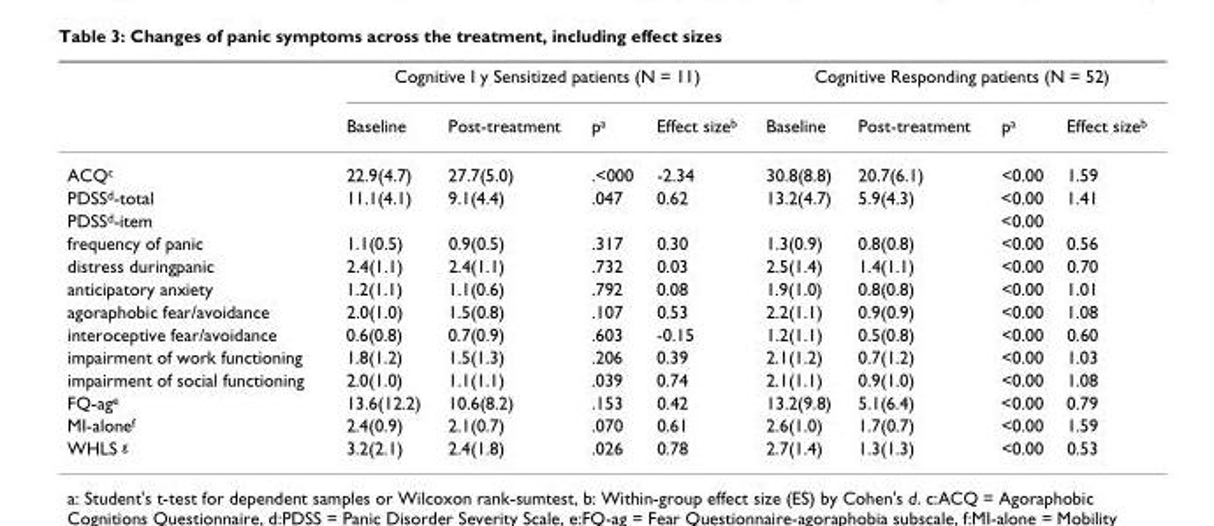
<table><thead><tr><td rowspan="2"></td><td colspan="4">Cognitive I y Sensitized patients (N = 11)</td><td colspan="4">Cognitive Responding patients (N = 52)</td></tr><tr><td>Baseline</td><td>Post-treatment</td><td>p<sup>a</sup></td><td>Effect size<sup>b</sup></td><td>Baseline</td><td>Post-treatment</td><td>p<sup>a</sup></td><td>Effect size<sup>b</sup></td></tr></thead><tbody><tr><td>ACQ<sup>c</sup></td><td>22.9(4.7)</td><td>27.7(5.0)</td><td>.&lt;000</td><td>-2.34</td><td>30.8(8.8)</td><td>20.7(6.1)</td><td>&lt;0.00</td><td>1.59</td></tr><tr><td>PDSS<sup>d</sup>-total</td><td>11.1(4.1)</td><td>9.1(4.4)</td><td>.047</td><td>0.62</td><td>13.2(4.7)</td><td>5.9(4.3)</td><td>&lt;0.00</td><td>1.41</td></tr><tr><td>PDSS<sup>d</sup>-item</td><td></td><td></td><td></td><td></td><td></td><td></td><td>&lt;0.00</td><td></td></tr><tr><td>frequency of panic</td><td>1.1(0.5)</td><td>0.9(0.5)</td><td>.317</td><td>0.30</td><td>1.3(0.9)</td><td>0.8(0.8)</td><td>&lt;0.00</td><td>0.56</td></tr><tr><td>distress duringpanic</td><td>2.4(1.1)</td><td>2.4(1.1)</td><td>.732</td><td>0.03</td><td>2.5(1.4)</td><td>1.4(1.1)</td><td>&lt;0.00</td><td>0.70</td></tr><tr><td>anticipatory anxiety</td><td>1.2(1.1)</td><td>1.1(0.6)</td><td>.792</td><td>0.08</td><td>1.9(1.0)</td><td>0.8(0.8)</td><td>&lt;0.00</td><td>1.01</td></tr><tr><td>agoraphobic fear/avoidance</td><td>2.0(1.0)</td><td>1.5(0.8)</td><td>.107</td><td>0.53</td><td>2.2(1.1)</td><td>0.9(0.9)</td><td>&lt;0.00</td><td>1.08</td></tr><tr><td>interoceptive fear/avoidance</td><td>0.6(0.8)</td><td>0.7(0.9)</td><td>.603</td><td>-0.15</td><td>1.2(1.1)</td><td>0.5(0.8)</td><td>&lt;0.00</td><td>0.60</td></tr><tr><td>impairment of work functioning</td><td>1.8(1.2)</td><td>1.5(1.3)</td><td>.206</td><td>0.39</td><td>2.1(1.2)</td><td>0.7(1.2)</td><td>&lt;0.00</td><td>1.03</td></tr><tr><td>impairment of social functioning</td><td>2.0(1.0)</td><td>1.1(1.1)</td><td>.039</td><td>0.74</td><td>2.1(1.1)</td><td>0.9(1.0)</td><td>&lt;0.00</td><td>1.08</td></tr><tr><td>FQ-ag<sup>e</sup></td><td>13.6(12.2)</td><td>10.6(8.2)</td><td>.153</td><td>0.42</td><td>13.2(9.8)</td><td>5.1(6.4)</td><td>&lt;0.00</td><td>0.79</td></tr><tr><td>MI-alone<sup>f</sup></td><td>2.4(0.9)</td><td>2.1(0.7)</td><td>.070</td><td>0.61</td><td>2.6(1.0)</td><td>1.7(0.7)</td><td>&lt;0.00</td><td>1.59</td></tr><tr><td>WHLS <sup>g</sup></td><td>3.2(2.1)</td><td>2.4(1.8)</td><td>.026</td><td>0.78</td><td>2.7(1.4)</td><td>1.3(1.3)</td><td>&lt;0.00</td><td>0.53</td></tr></tbody></table>